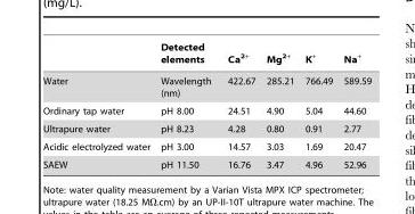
<table><thead><tr><td></td><td>Detected elements</td><td>Ca<sup>2+</sup></td><td>Mg<sup>2+</sup></td><td>K<sup>+</sup></td><td>Na<sup>+</sup></td></tr></thead><tbody><tr><td>Water</td><td>Wavelength (nm)</td><td>422.67</td><td>285.21</td><td>766.49</td><td>589.59</td></tr><tr><td>Ordinary tap water</td><td>pH 8.00</td><td>24.51</td><td>4.90</td><td>5.04</td><td>44.60</td></tr><tr><td>Ultrapure water</td><td>pH 8.23</td><td>4.28</td><td>0.80</td><td>0.91</td><td>2.77</td></tr><tr><td>Acidic electrolyzed water</td><td>pH 3.00</td><td>14.57</td><td>3.03</td><td>1.69</td><td>20.47</td></tr><tr><td>SAEW</td><td>pH 11.50</td><td>16.76</td><td>3.47</td><td>4.96</td><td>52.96</td></tr></tbody></table>